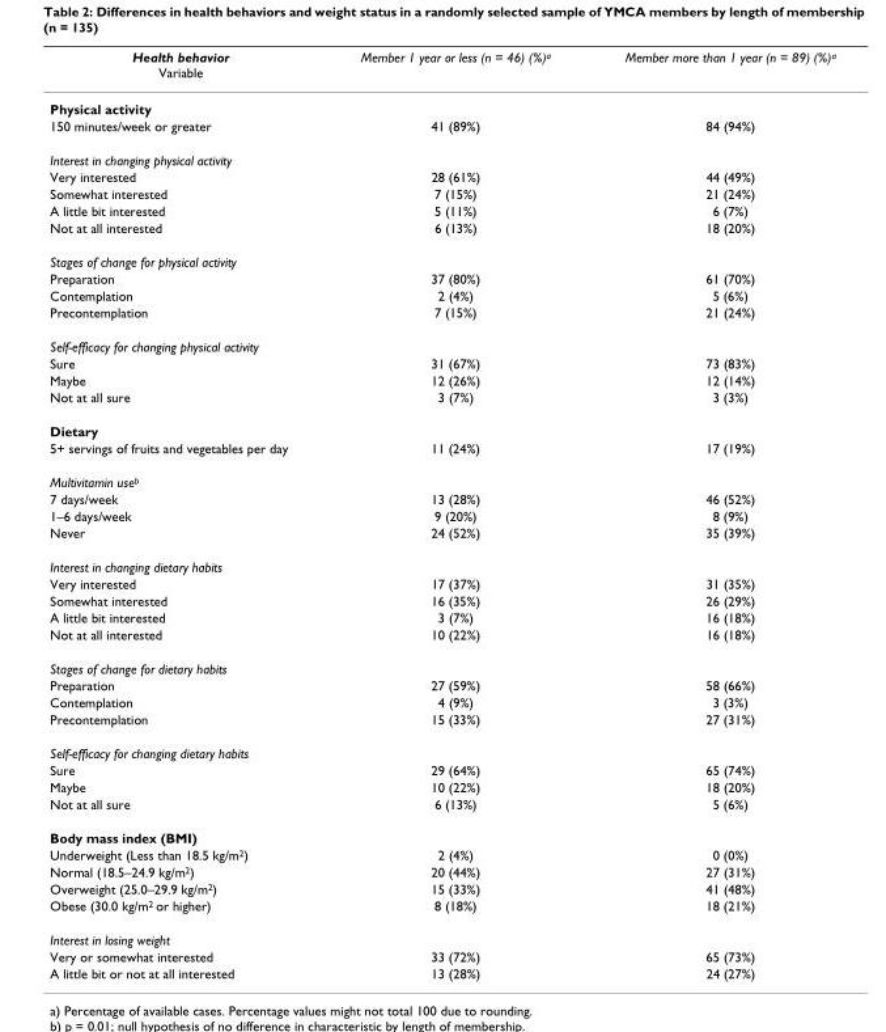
<table><thead><tr><td>Health behavior Variable</td><td>Member 1 year or less (n = 46) (%)<sup>a</sup></td><td>Member more than 1 year (n = 89) (%)<sup>a</sup></td></tr></thead><tbody><tr><td colspan="3">Physical activity</td></tr><tr><td>150 minutes/week or greater</td><td>41 (89%)</td><td>84 (94%)</td></tr><tr><td colspan="3">Interest in changing physical activity</td></tr><tr><td>Very interested</td><td>28 (61%)</td><td>44 (49%)</td></tr><tr><td>Somewhat interested</td><td>7 (15%)</td><td>21 (24%)</td></tr><tr><td>A little bit interested</td><td>5 (11%)</td><td>6 (7%)</td></tr><tr><td>Not at all interested</td><td>6 (13%)</td><td>18 (20%)</td></tr><tr><td colspan="3">Stages of change for physical activity</td></tr><tr><td>Preparation</td><td>37 (80%)</td><td>61 (70%)</td></tr><tr><td>Contemplation</td><td>2 (4%)</td><td>5 (6%)</td></tr><tr><td>Precontemplation</td><td>7 (15%)</td><td>21 (24%)</td></tr><tr><td colspan="3">Self-efficacy for changing physical activity</td></tr><tr><td>Sure</td><td>31 (67%)</td><td>73 (83%)</td></tr><tr><td>Maybe</td><td>12 (26%)</td><td>12 (14%)</td></tr><tr><td>Not at all sure</td><td>3 (7%)</td><td>3 (3%)</td></tr><tr><td colspan="3">Dietary</td></tr><tr><td>5+ servings of fruits and vegetables per day</td><td>11 (24%)</td><td>17 (19%)</td></tr><tr><td colspan="3">Multivitamin use<sup>b</sup></td></tr><tr><td>7 days/week</td><td>13 (28%)</td><td>46 (52%)</td></tr><tr><td>1–6 days/week</td><td>9 (20%)</td><td>8 (9%)</td></tr><tr><td>Never</td><td>24 (52%)</td><td>35 (39%)</td></tr><tr><td colspan="3">Interest in changing dietary habits</td></tr><tr><td>Very interested</td><td>17 (37%)</td><td>31 (35%)</td></tr><tr><td>Somewhat interested</td><td>16 (35%)</td><td>26 (29%)</td></tr><tr><td>A little bit interested</td><td>3 (7%)</td><td>16 (18%)</td></tr><tr><td>Not at all interested</td><td>10 (22%)</td><td>16 (18%)</td></tr><tr><td colspan="3">Stages of change for dietary habits</td></tr><tr><td>Preparation</td><td>27 (59%)</td><td>58 (66%)</td></tr><tr><td>Contemplation</td><td>4 (9%)</td><td>3 (3%)</td></tr><tr><td>Precontemplation</td><td>15 (33%)</td><td>27 (31%)</td></tr><tr><td colspan="3">Self-efficacy for changing dietary habits</td></tr><tr><td>Sure</td><td>29 (64%)</td><td>65 (74%)</td></tr><tr><td>Maybe</td><td>10 (22%)</td><td>18 (20%)</td></tr><tr><td>Not at all sure</td><td>6 (13%)</td><td>5 (6%)</td></tr><tr><td colspan="3">Body mass index (BMI)</td></tr><tr><td>Underweight (Less than 18.5 kg/m<sup>2</sup>)</td><td>2 (4%)</td><td>0 (0%)</td></tr><tr><td>Normal (18.5–24.9 kg/m<sup>2</sup>)</td><td>20 (44%)</td><td>27 (31%)</td></tr><tr><td>Overweight (25.0–29.9 kg/m<sup>2</sup>)</td><td>15 (33%)</td><td>41 (48%)</td></tr><tr><td>Obese (30.0 kg/m<sup>2</sup> or higher)</td><td>8 (18%)</td><td>18 (21%)</td></tr><tr><td colspan="3">Interest in losing weight</td></tr><tr><td>Very or somewhat interested</td><td>33 (72%)</td><td>65 (73%)</td></tr><tr><td>A little bit or not at all interested</td><td>13 (28%)</td><td>24 (27%)</td></tr></tbody></table>